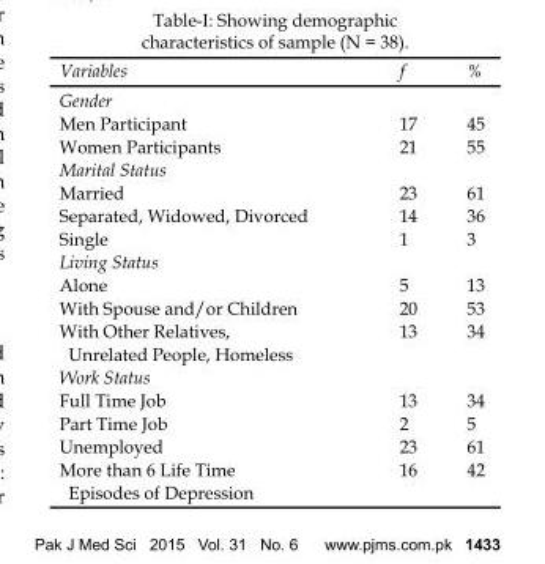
<table><thead><tr><td>Variables</td><td>f</td><td>%</td></tr></thead><tbody><tr><td colspan="3">Gender</td></tr><tr><td>Men Participant</td><td>17</td><td>45</td></tr><tr><td>Women Participants</td><td>21</td><td>55</td></tr><tr><td colspan="3">Marital Status</td></tr><tr><td>Married</td><td>23</td><td>61</td></tr><tr><td>Separated, Widowed, Divorced</td><td>14</td><td>36</td></tr><tr><td>Single</td><td>1</td><td>3</td></tr><tr><td colspan="3">Living Status</td></tr><tr><td>Alone</td><td>5</td><td>13</td></tr><tr><td>With Spouse and/or Children</td><td>20</td><td>53</td></tr><tr><td>With Other Relatives, Unrelated People, Homeless</td><td>13</td><td>34</td></tr><tr><td colspan="3">Work Status</td></tr><tr><td>Full Time Job</td><td>13</td><td>34</td></tr><tr><td>Part Time Job</td><td>2</td><td>5</td></tr><tr><td>Unemployed</td><td>23</td><td>61</td></tr><tr><td>More than 6 Life Time Episodes of Depression</td><td>16</td><td>42</td></tr></tbody></table>